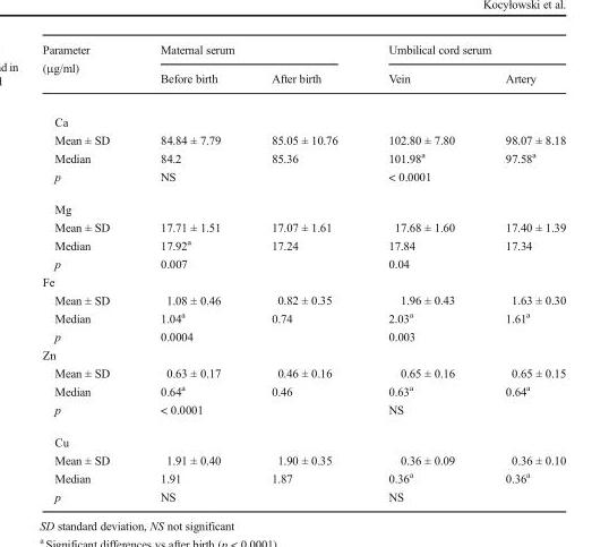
<table><thead><tr><td rowspan="2">Parameter (μg/ml)</td><td colspan="2">Maternal serum</td><td colspan="2">Umbilical cord serum</td></tr><tr><td>Before birth</td><td>After birth</td><td>Vein</td><td>Artery</td></tr></thead><tbody><tr><td colspan="5">Ca</td></tr><tr><td>Mean ± SD Median</td><td>84.84 ± 7.79 84.2</td><td>85.05 ± 10.76 85.36</td><td>102.80 ± 7.80 101.98<sup>a</sup></td><td>98.07 ± 8.18 97.58<sup>a</sup></td></tr><tr><td>p</td><td colspan="2">NS</td><td colspan="2">&lt; 0.0001</td></tr><tr><td colspan="5">Mg</td></tr><tr><td>Mean ± SD Median</td><td>17.71 ± 1.51 17.92<sup>a</sup></td><td>17.07 ± 1.61 17.24</td><td>17.68 ± 1.60 17.84</td><td>17.40 ± 1.39 17.34</td></tr><tr><td>p</td><td colspan="2">0.007</td><td colspan="2">0.04</td></tr><tr><td colspan="5">Fe</td></tr><tr><td>Mean ± SD Median</td><td>1.08 ± 0.46 1.04<sup>a</sup></td><td>0.82 ± 0.35 0.74</td><td>1.96 ± 0.43 2.03<sup>a</sup></td><td>1.63 ± 0.30 1.61<sup>a</sup></td></tr><tr><td>p</td><td colspan="2">0.0004</td><td colspan="2">0.003</td></tr><tr><td colspan="5">Zn</td></tr><tr><td>Mean ± SD Median</td><td>0.63 ± 0.17 0.64<sup>a</sup></td><td>0.46 ± 0.16 0.46</td><td>0.65 ± 0.16 0.63<sup>a</sup></td><td>0.65 ± 0.15 0.64<sup>a</sup></td></tr><tr><td>p</td><td colspan="2">&lt; 0.0001</td><td colspan="2">NS</td></tr><tr><td colspan="5">Cu</td></tr><tr><td>Mean ± SD Median</td><td>1.91 ± 0.40 1.91</td><td>1.90 ± 0.35 1.87</td><td>0.36 ± 0.09 0.36<sup>a</sup></td><td>0.36 ± 0.10 0.36<sup>a</sup></td></tr><tr><td>p</td><td colspan="2">NS</td><td colspan="2">NS</td></tr></tbody></table>